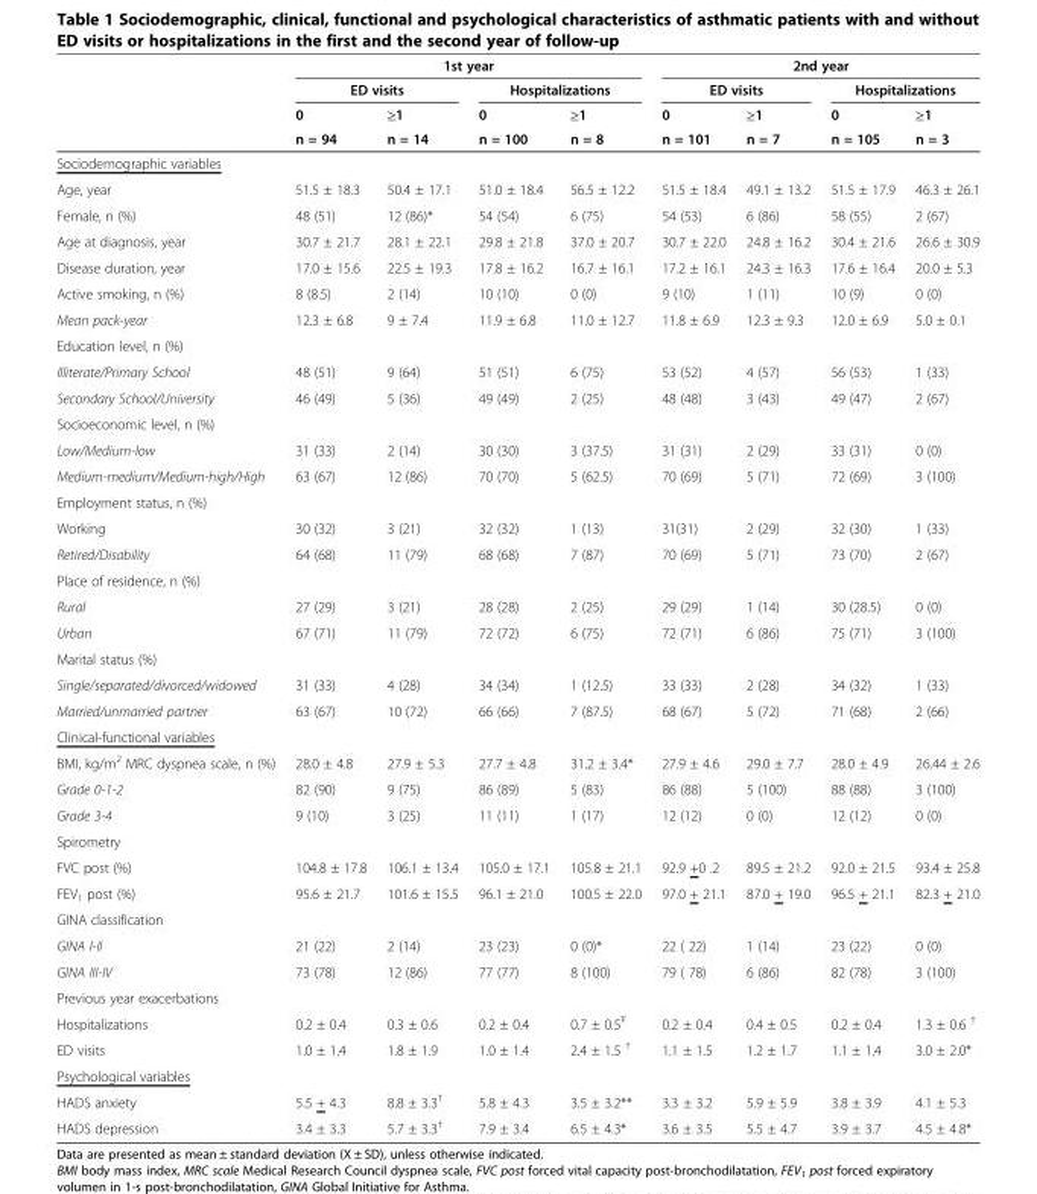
<table><thead><tr><td rowspan="4"></td><td colspan="4">1st year</td><td colspan="4">2nd year</td></tr><tr><td colspan="2">ED visits</td><td colspan="2">Hospitalizations</td><td colspan="2">ED visits</td><td colspan="2">Hospitalizations</td></tr><tr><td rowspan="2">0 n = 94</td><td rowspan="2">≥1 n = 14</td><td rowspan="2">0 n = 100</td><td rowspan="2">≥1 n = 8</td><td rowspan="2">0 n = 101</td><td rowspan="2">≥1 n = 7</td><td rowspan="2">0 n = 105</td><td rowspan="2">≥1 n = 3</td></tr><tr></tr></thead><tbody><tr><td colspan="9">Sociodemographic variables</td></tr><tr><td>Age, year</td><td>51.5 ± 18.3</td><td>50.4 ± 17.1</td><td>51.0 ± 18.4</td><td>56.5 ± 12.2</td><td>51.5 ± 18.4</td><td>49.1 ± 13.2</td><td>51.5 ± 17.9</td><td>46.3 ± 26.1</td></tr><tr><td>Female, n (%)</td><td>48 (51)</td><td>12 (86)*</td><td>54 (54)</td><td>6 (75)</td><td>54 (53)</td><td>6 (86)</td><td>58 (55)</td><td>2 (67)</td></tr><tr><td>Age at diagnosis, year</td><td>30.7 ± 21.7</td><td>28.1 ± 22.1</td><td>29.8 ± 21.8</td><td>37.0 ± 20.7</td><td>30.7 ± 22.0</td><td>24.8 ± 16.2</td><td>30.4 ± 21.6</td><td>26.6 ± 30.9</td></tr><tr><td>Disease duration, year</td><td>17.0 ± 15.6</td><td>22.5 ± 19.3</td><td>17.8 ± 16.2</td><td>16.7 ± 16.1</td><td>17.2 ± 16.1</td><td>24.3 ± 16.3</td><td>17.6 ± 16.4</td><td>20.0 ± 5.3</td></tr><tr><td>Active smoking, n (%)</td><td>8 (8.5)</td><td>2 (14)</td><td>10 (10)</td><td>0 (0)</td><td>9 (10)</td><td>1 (11)</td><td>10 (9)</td><td>0 (0)</td></tr><tr><td>Mean pack-year</td><td>12.3 ± 6.8</td><td>9 ± 7.4</td><td>11.9 ± 6.8</td><td>11.0 ± 12.7</td><td>11.8 ± 6.9</td><td>12.3 ± 9.3</td><td>12.0 ± 6.9</td><td>5.0 ± 0.1</td></tr><tr><td colspan="9">Education level, n (%)</td></tr><tr><td>Illiterate/Primary School</td><td>48 (51)</td><td>9 (64)</td><td>51 (51)</td><td>6 (75)</td><td>53 (52)</td><td>4 (57)</td><td>56 (53)</td><td>1 (33)</td></tr><tr><td>Secondary School/University</td><td>46 (49)</td><td>5 (36)</td><td>49 (49)</td><td>2 (25)</td><td>48 (48)</td><td>3 (43)</td><td>49 (47)</td><td>2 (67)</td></tr><tr><td colspan="9">Socioeconomic level, n (%)</td></tr><tr><td>Low/Medium-low</td><td>31 (33)</td><td>2 (14)</td><td>30 (30)</td><td>3 (37.5)</td><td>31 (31)</td><td>2 (29)</td><td>33 (31)</td><td>0 (0)</td></tr><tr><td>Medium-medium/Medium-high/High</td><td>63 (67)</td><td>12 (86)</td><td>70 (70)</td><td>5 (62.5)</td><td>70 (69)</td><td>5 (71)</td><td>72 (69)</td><td>3 (100)</td></tr><tr><td colspan="9">Employment status, n (%)</td></tr><tr><td>Working</td><td>30 (32)</td><td>3 (21)</td><td>32 (32)</td><td>1 (13)</td><td>31(31)</td><td>2 (29)</td><td>32 (30)</td><td>1 (33)</td></tr><tr><td>Retired/Disability</td><td>64 (68)</td><td>11 (79)</td><td>68 (68)</td><td>7 (87)</td><td>70 (69)</td><td>5 (71)</td><td>73 (70)</td><td>2 (67)</td></tr><tr><td colspan="9">Place of residence, n (%)</td></tr><tr><td>Rural</td><td>27 (29)</td><td>3 (21)</td><td>28 (28)</td><td>2 (25)</td><td>29 (29)</td><td>1 (14)</td><td>30 (28.5)</td><td>0 (0)</td></tr><tr><td>Urban</td><td>67 (71)</td><td>11 (79)</td><td>72 (72)</td><td>6 (75)</td><td>72 (71)</td><td>6 (86)</td><td>75 (71)</td><td>3 (100)</td></tr><tr><td colspan="9">Marital status (%)</td></tr><tr><td>Single/separated/divorced/widowed</td><td>31 (33)</td><td>4 (28)</td><td>34 (34)</td><td>1 (12.5)</td><td>33 (33)</td><td>2 (28)</td><td>34 (32)</td><td>1 (33)</td></tr><tr><td>Married/unmarried partner</td><td>63 (67)</td><td>10 (72)</td><td>66 (66)</td><td>7 (87.5)</td><td>68 (67)</td><td>5 (72)</td><td>71 (68)</td><td>2 (66)</td></tr><tr><td colspan="9">Clinical-functional variables</td></tr><tr><td>BMI, kg/m<sup>2</sup> MRC dyspnea scale, n (%)</td><td>28.0 ± 4.8</td><td>27.9 ± 5.3</td><td>27.7 ± 4.8</td><td>31.2 ± 3.4*</td><td>27.9 ± 4.6</td><td>29.0 ± 7.7</td><td>28.0 ± 4.9</td><td>26.44 ± 2.6</td></tr><tr><td>Grade 0-1-2</td><td>82 (90)</td><td>9 (75)</td><td>86 (89)</td><td>5 (83)</td><td>86 (88)</td><td>5 (100)</td><td>88 (88)</td><td>3 (100)</td></tr><tr><td>Grade 3-4</td><td>9 (10)</td><td>3 (25)</td><td>11 (11)</td><td>1 (17)</td><td>12 (12)</td><td>0 (0)</td><td>12 (12)</td><td>0 (0)</td></tr><tr><td colspan="9">Spirometry</td></tr><tr><td>FVC post (%)</td><td>104.8 ± 17.8</td><td>106.1 ± 13.4</td><td>105.0 ± 17.1</td><td>105.8 ± 21.1</td><td>92.9 +0 .2</td><td>89.5 ± 21.2</td><td>92.0 ± 21.5</td><td>93.4 ± 25.8</td></tr><tr><td>FEV<sub>1</sub> post (%)</td><td>95.6 ± 21.7</td><td>101.6 ± 15.5</td><td>96.1 ± 21.0</td><td>100.5 ± 22.0</td><td>97.0 + 21.1</td><td>87.0 + 19.0</td><td>96.5 + 21.1</td><td>82.3 + 21.0</td></tr><tr><td colspan="9">GINA classification</td></tr><tr><td>GINA I-II</td><td>21 (22)</td><td>2 (14)</td><td>23 (23)</td><td>0 (0)*</td><td>22 ( 22)</td><td>1 (14)</td><td>23 (22)</td><td>0 (0)</td></tr><tr><td>GINA III-IV</td><td>73 (78)</td><td>12 (86)</td><td>77 (77)</td><td>8 (100)</td><td>79 ( 78)</td><td>6 (86)</td><td>82 (78)</td><td>3 (100)</td></tr><tr><td colspan="9">Previous year exacerbations</td></tr><tr><td>Hospitalizations</td><td>0.2 ± 0.4</td><td>0.3 ± 0.6</td><td>0.2 ± 0.4</td><td>0.7 ± 0.5<sup>Ŧ</sup></td><td>0.2 ± 0.4</td><td>0.4 ± 0.5</td><td>0.2 ± 0.4</td><td>1.3 ± 0.6 <sup>†</sup></td></tr><tr><td>ED visits</td><td>1.0 ± 1.4</td><td>1.8 ± 1.9</td><td>1.0 ± 1.4</td><td>2.4 ± 1.5 <sup>†</sup></td><td>1.1 ± 1.5</td><td>1.2 ± 1.7</td><td>1.1 ± 1.4</td><td>3.0 ± 2.0*</td></tr><tr><td colspan="9">Psychological variables</td></tr><tr><td>HADS anxiety</td><td>5.5 + 4.3</td><td>8.8 ± 3.3<sup>†</sup></td><td>5.8 ± 4.3</td><td>3.5 ± 3.2**</td><td>3.3 ± 3.2</td><td>5.9 ± 5.9</td><td>3.8 ± 3.9</td><td>4.1 ± 5.3</td></tr><tr><td>HADS depression</td><td>3.4 ± 3.3</td><td>5.7 ± 3.3<sup>†</sup></td><td>7.9 ± 3.4</td><td>6.5 ± 4.3*</td><td>3.6 ± 3.5</td><td>5.5 ± 4.7</td><td>3.9 ± 3.7</td><td>4.5 ± 4.8*</td></tr></tbody></table>